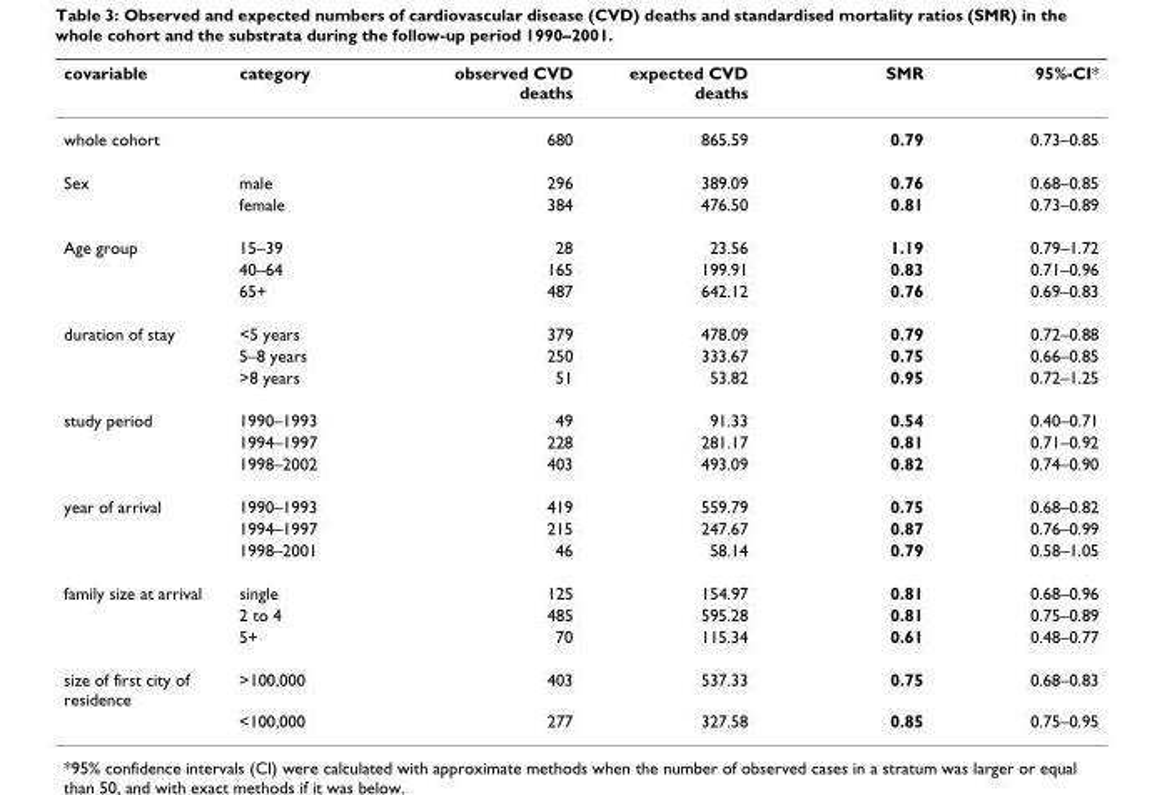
<table><thead><tr><td>covariable</td><td>category</td><td>observed CVD deaths</td><td>expected CVD deaths</td><td>SMR</td><td>95%-CI*</td></tr></thead><tbody><tr><td>whole cohort</td><td></td><td>680</td><td>865.59</td><td>0.79</td><td>0.73–0.85</td></tr><tr><td rowspan="2">Sex</td><td>male</td><td>296</td><td>389.09</td><td>0.76</td><td>0.68–0.85</td></tr><tr><td>female</td><td>384</td><td>476.50</td><td>0.81</td><td>0.73–0.89</td></tr><tr><td rowspan="3">Age group</td><td>15–39</td><td>28</td><td>23.56</td><td>1.19</td><td>0.79–1.72</td></tr><tr><td>40–64</td><td>165</td><td>199.91</td><td>0.83</td><td>0.71–0.96</td></tr><tr><td>65+</td><td>487</td><td>642.12</td><td>0.76</td><td>0.69–0.83</td></tr><tr><td rowspan="3">duration of stay</td><td>&lt;5 years</td><td>379</td><td>478.09</td><td>0.79</td><td>0.72–0.88</td></tr><tr><td>5–8 years</td><td>250</td><td>333.67</td><td>0.75</td><td>0.66–0.85</td></tr><tr><td>&gt;8 years</td><td>51</td><td>53.82</td><td>0.95</td><td>0.72–1.25</td></tr><tr><td rowspan="3">study period</td><td>1990–1993</td><td>49</td><td>91.33</td><td>0.54</td><td>0.40–0.71</td></tr><tr><td>1994–1997</td><td>228</td><td>281.17</td><td>0.81</td><td>0.71–0.92</td></tr><tr><td>1998–2002</td><td>403</td><td>493.09</td><td>0.82</td><td>0.74–0.90</td></tr><tr><td rowspan="3">year of arrival</td><td>1990–1993</td><td>419</td><td>559.79</td><td>0.75</td><td>0.68–0.82</td></tr><tr><td>1994–1997</td><td>215</td><td>247.67</td><td>0.87</td><td>0.76–0.99</td></tr><tr><td>1998–2001</td><td>46</td><td>58.14</td><td>0.79</td><td>0.58–1.05</td></tr><tr><td rowspan="3">family size at arrival</td><td>single</td><td>125</td><td>154.97</td><td>0.81</td><td>0.68–0.96</td></tr><tr><td>2 to 4</td><td>485</td><td>595.28</td><td>0.81</td><td>0.75–0.89</td></tr><tr><td>5+</td><td>70</td><td>115.34</td><td>0.61</td><td>0.48–0.77</td></tr><tr><td rowspan="2">size of first city of residence</td><td>&gt;100,000</td><td>403</td><td>537.33</td><td>0.75</td><td>0.68–0.83</td></tr><tr><td>&lt;100,000</td><td>277</td><td>327.58</td><td>0.85</td><td>0.75–0.95</td></tr></tbody></table>